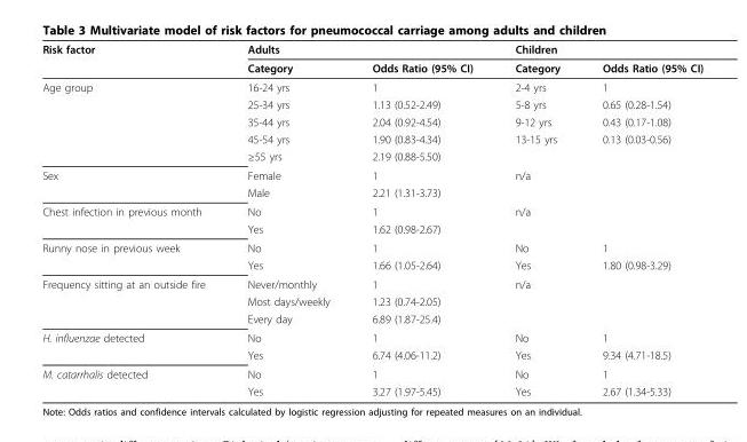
<table><thead><tr><td rowspan="2">Risk factor</td><td rowspan="2">Adults Category</td><td rowspan="2">Odds Ratio (95% CI)</td><td rowspan="2">Children Category</td><td rowspan="2">Odds Ratio (95% CI)</td></tr><tr></tr></thead><tbody><tr><td rowspan="5">Age group</td><td>16-24 yrs</td><td>1</td><td>2-4 yrs</td><td>1</td></tr><tr><td>25-34 yrs</td><td>1.13 (0.52-2.49)</td><td>5-8 yrs</td><td>0.65 (0.28-1.54)</td></tr><tr><td>35-44 yrs</td><td>2.04 (0.92-4.54)</td><td>9-12 yrs</td><td>0.43 (0.17-1.08)</td></tr><tr><td>45-54 yrs</td><td>1.90 (0.83-4.34)</td><td>13-15 yrs</td><td>0.13 (0.03-0.56)</td></tr><tr><td>≥55 yrs</td><td>2.19 (0.88-5.50)</td><td></td><td></td></tr><tr><td rowspan="2">Sex</td><td>Female</td><td>1</td><td>n/a</td><td></td></tr><tr><td>Male</td><td>2.21 (1.31-3.73)</td><td></td><td></td></tr><tr><td rowspan="2">Chest infection in previous month</td><td>No</td><td>1</td><td>n/a</td><td></td></tr><tr><td>Yes</td><td>1.62 (0.98-2.67)</td><td></td><td></td></tr><tr><td rowspan="2">Runny nose in previous week</td><td>No</td><td>1</td><td>No</td><td>1</td></tr><tr><td>Yes</td><td>1.66 (1.05-2.64)</td><td>Yes</td><td>1.80 (0.98-3.29)</td></tr><tr><td rowspan="3">Frequency sitting at an outside fire</td><td>Never/monthly</td><td>1</td><td>n/a</td><td></td></tr><tr><td>Most days/weekly</td><td>1.23 (0.74-2.05)</td><td></td><td></td></tr><tr><td>Every day</td><td>6.89 (1.87-25.4)</td><td></td><td></td></tr><tr><td rowspan="2">H. influenzae detected</td><td>No</td><td>1</td><td>No</td><td>1</td></tr><tr><td>Yes</td><td>6.74 (4.06-11.2)</td><td>Yes</td><td>9.34 (4.71-18.5)</td></tr><tr><td rowspan="2">M. catarrhalis detected</td><td>No</td><td>1</td><td>No</td><td>1</td></tr><tr><td>Yes</td><td>3.27 (1.97-5.45)</td><td>Yes</td><td>2.67 (1.34-5.33)</td></tr></tbody></table>